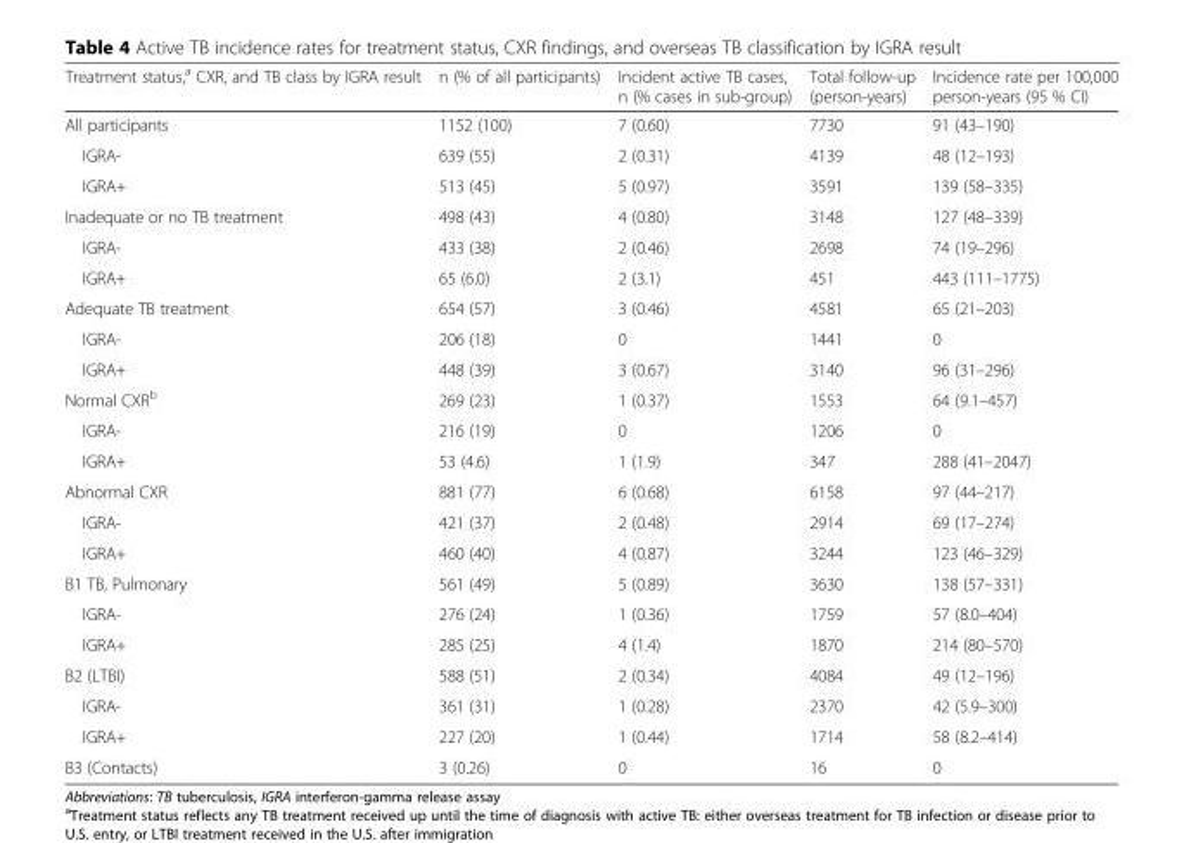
<table><thead><tr><td>Treatment status,<sup>a</sup> CXR, and TB class by IGRA result</td><td>n (% of all participants)</td><td>Incident active TB cases, n (% cases in sub-group)</td><td>Total follow-up (person-years)</td><td>Incidence rate per 100,000 person-years (95 % CI)</td></tr></thead><tbody><tr><td>All participants</td><td>1152 (100)</td><td>7 (0.60)</td><td>7730</td><td>91 (43–190)</td></tr><tr><td>IGRA-</td><td>639 (55)</td><td>2 (0.31)</td><td>4139</td><td>48 (12–193)</td></tr><tr><td>IGRA+</td><td>513 (45)</td><td>5 (0.97)</td><td>3591</td><td>139 (58–335)</td></tr><tr><td>Inadequate or no TB treatment</td><td>498 (43)</td><td>4 (0.80)</td><td>3148</td><td>127 (48–339)</td></tr><tr><td>IGRA-</td><td>433 (38)</td><td>2 (0.46)</td><td>2698</td><td>74 (19–296)</td></tr><tr><td>IGRA+</td><td>65 (6.0)</td><td>2 (3.1)</td><td>451</td><td>443 (111–1775)</td></tr><tr><td>Adequate TB treatment</td><td>654 (57)</td><td>3 (0.46)</td><td>4581</td><td>65 (21–203)</td></tr><tr><td>IGRA-</td><td>206 (18)</td><td>0</td><td>1441</td><td>0</td></tr><tr><td>IGRA+</td><td>448 (39)</td><td>3 (0.67)</td><td>3140</td><td>96 (31–296)</td></tr><tr><td>Normal CXR<sup>b</sup></td><td>269 (23)</td><td>1 (0.37)</td><td>1553</td><td>64 (9.1–457)</td></tr><tr><td>IGRA-</td><td>216 (19)</td><td>0</td><td>1206</td><td>0</td></tr><tr><td>IGRA+</td><td>53 (4.6)</td><td>1 (1.9)</td><td>347</td><td>288 (41–2047)</td></tr><tr><td>Abnormal CXR</td><td>881 (77)</td><td>6 (0.68)</td><td>6158</td><td>97 (44–217)</td></tr><tr><td>IGRA-</td><td>421 (37)</td><td>2 (0.48)</td><td>2914</td><td>69 (17–274)</td></tr><tr><td>IGRA+</td><td>460 (40)</td><td>4 (0.87)</td><td>3244</td><td>123 (46–329)</td></tr><tr><td>B1 TB, Pulmonary</td><td>561 (49)</td><td>5 (0.89)</td><td>3630</td><td>138 (57–331)</td></tr><tr><td>IGRA-</td><td>276 (24)</td><td>1 (0.36)</td><td>1759</td><td>57 (8.0–404)</td></tr><tr><td>IGRA+</td><td>285 (25)</td><td>4 (1.4)</td><td>1870</td><td>214 (80–570)</td></tr><tr><td>B2 (LTBI)</td><td>588 (51)</td><td>2 (0.34)</td><td>4084</td><td>49 (12–196)</td></tr><tr><td>IGRA-</td><td>361 (31)</td><td>1 (0.28)</td><td>2370</td><td>42 (5.9–300)</td></tr><tr><td>IGRA+</td><td>227 (20)</td><td>1 (0.44)</td><td>1714</td><td>58 (8.2–414)</td></tr><tr><td>B3 (Contacts)</td><td>3 (0.26)</td><td>0</td><td>16</td><td>0</td></tr></tbody></table>